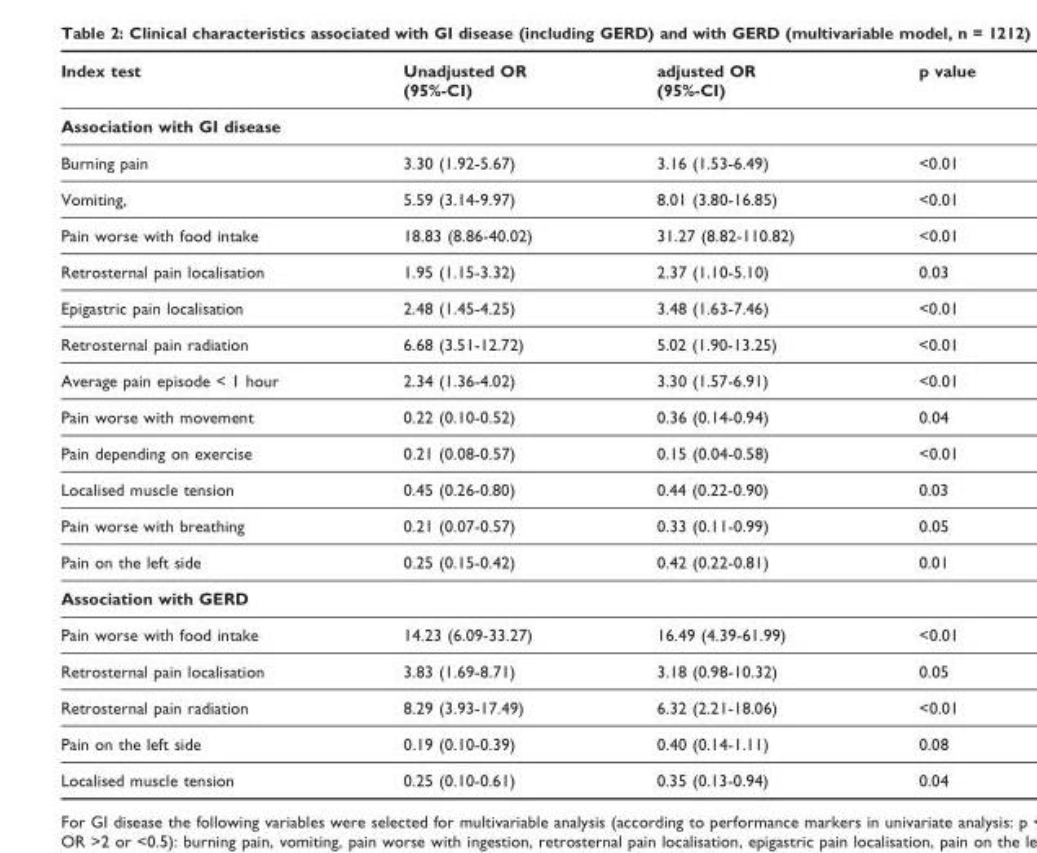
<table><thead><tr><td>Index test</td><td>Unadjusted OR (95%-CI)</td><td>adjusted OR (95%-CI)</td><td>p value</td></tr></thead><tbody><tr><td colspan="4">Association with GI disease</td></tr><tr><td>Burning pain</td><td>3.30 (1.92-5.67)</td><td>3.16 (1.53-6.49)</td><td>&lt;0.01</td></tr><tr><td>Vomiting,</td><td>5.59 (3.14-9.97)</td><td>8.01 (3.80-16.85)</td><td>&lt;0.01</td></tr><tr><td>Pain worse with food intake</td><td>18.83 (8.86-40.02)</td><td>31.27 (8.82-110.82)</td><td>&lt;0.01</td></tr><tr><td>Retrosternal pain localisation</td><td>1.95 (1.15-3.32)</td><td>2.37 (1.10-5.10)</td><td>0.03</td></tr><tr><td>Epigastric pain localisation</td><td>2.48 (1.45-4.25)</td><td>3.48 (1.63-7.46)</td><td>&lt;0.01</td></tr><tr><td>Retrosternal pain radiation</td><td>6.68 (3.51-12.72)</td><td>5.02 (1.90-13.25)</td><td>&lt;0.01</td></tr><tr><td>Average pain episode &lt; 1 hour</td><td>2.34 (1.36-4.02)</td><td>3.30 (1.57-6.91)</td><td>&lt;0.01</td></tr><tr><td>Pain worse with movement</td><td>0.22 (0.10-0.52)</td><td>0.36 (0.14-0.94)</td><td>0.04</td></tr><tr><td>Pain depending on exercise</td><td>0.21 (0.08-0.57)</td><td>0.15 (0.04-0.58)</td><td>&lt;0.01</td></tr><tr><td>Localised muscle tension</td><td>0.45 (0.26-0.80)</td><td>0.44 (0.22-0.90)</td><td>0.03</td></tr><tr><td>Pain worse with breathing</td><td>0.21 (0.07-0.57)</td><td>0.33 (0.11-0.99)</td><td>0.05</td></tr><tr><td>Pain on the left side</td><td>0.25 (0.15-0.42)</td><td>0.42 (0.22-0.81)</td><td>0.01</td></tr><tr><td colspan="4">Association with GERD</td></tr><tr><td>Pain worse with food intake</td><td>14.23 (6.09-33.27)</td><td>16.49 (4.39-61.99)</td><td>&lt;0.01</td></tr><tr><td>Retrosternal pain localisation</td><td>3.83 (1.69-8.71)</td><td>3.18 (0.98-10.32)</td><td>0.05</td></tr><tr><td>Retrosternal pain radiation</td><td>8.29 (3.93-17.49)</td><td>6.32 (2.21-18.06)</td><td>&lt;0.01</td></tr><tr><td>Pain on the left side</td><td>0.19 (0.10-0.39)</td><td>0.40 (0.14-1.11)</td><td>0.08</td></tr><tr><td>Localised muscle tension</td><td>0.25 (0.10-0.61)</td><td>0.35 (0.13-0.94)</td><td>0.04</td></tr></tbody></table>